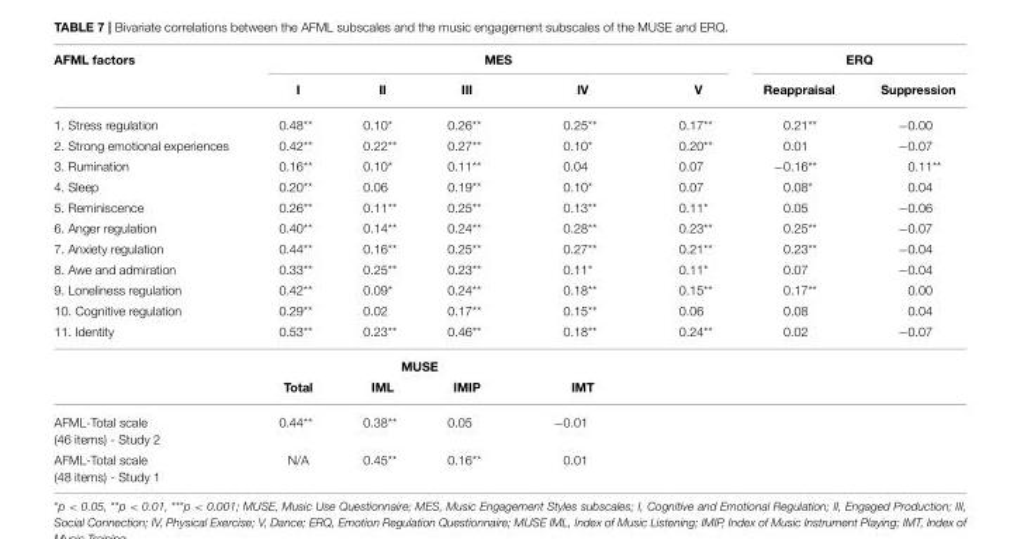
<table><thead><tr><td rowspan="2">AFML factors</td><td colspan="5">MES</td><td colspan="2">ERQ</td></tr><tr><td>I</td><td>II</td><td>III</td><td>IV</td><td>V</td><td>Reappraisal</td><td>Suppression</td></tr></thead><tbody><tr><td>1. Stress regulation</td><td>0.48**</td><td>0.10*</td><td>0.26**</td><td>0.25**</td><td>0.17**</td><td>0.21**</td><td>−0.00</td></tr><tr><td>2. Strong emotional experiences</td><td>0.42**</td><td>0.22**</td><td>0.27**</td><td>0.10*</td><td>0.20**</td><td>0.01</td><td>−0.07</td></tr><tr><td>3. Rumination</td><td>0.16**</td><td>0.10*</td><td>0.11**</td><td>0.04</td><td>0.07</td><td>−0.16**</td><td>0.11**</td></tr><tr><td>4. Sleep</td><td>0.20**</td><td>0.06</td><td>0.19**</td><td>0.10*</td><td>0.07</td><td>0.08*</td><td>0.04</td></tr><tr><td>5. Reminiscence</td><td>0.26**</td><td>0.11**</td><td>0.25**</td><td>0.13**</td><td>0.11*</td><td>0.05</td><td>−0.06</td></tr><tr><td>6. Anger regulation</td><td>0.40**</td><td>0.14**</td><td>0.24**</td><td>0.28**</td><td>0.23**</td><td>0.25**</td><td>−0.07</td></tr><tr><td>7. Anxiety regulation</td><td>0.44**</td><td>0.16**</td><td>0.25**</td><td>0.27**</td><td>0.21**</td><td>0.23**</td><td>−0.04</td></tr><tr><td>8. Awe and admiration</td><td>0.33**</td><td>0.25**</td><td>0.23**</td><td>0.11*</td><td>0.11*</td><td>0.07</td><td>−0.04</td></tr><tr><td>9. Loneliness regulation</td><td>0.42**</td><td>0.09*</td><td>0.24**</td><td>0.18**</td><td>0.15**</td><td>0.17**</td><td>0.00</td></tr><tr><td>10. Cognitive regulation</td><td>0.29**</td><td>0.02</td><td>0.17**</td><td>0.15**</td><td>0.06</td><td>0.08</td><td>0.04</td></tr><tr><td rowspan="3">11. Identity</td><td>0.53**</td><td>0.23**</td><td>0.46**</td><td>0.18**</td><td>0.24**</td><td>0.02</td><td>−0.07</td></tr><tr><td colspan="4">MUSE</td><td></td><td></td><td></td></tr><tr><td>Total</td><td>IML</td><td>IMIP</td><td>IMT</td><td></td><td></td><td></td></tr><tr><td>AFML-Total scale (46 items) - Study 2</td><td>0.44**</td><td>0.38**</td><td>0.05</td><td>−0.01</td><td></td><td></td><td></td></tr><tr><td>AFML-Total scale (48 items) - Study 1</td><td>N/A</td><td>0.45**</td><td>0.16**</td><td>0.01</td><td></td><td></td><td></td></tr></tbody></table>